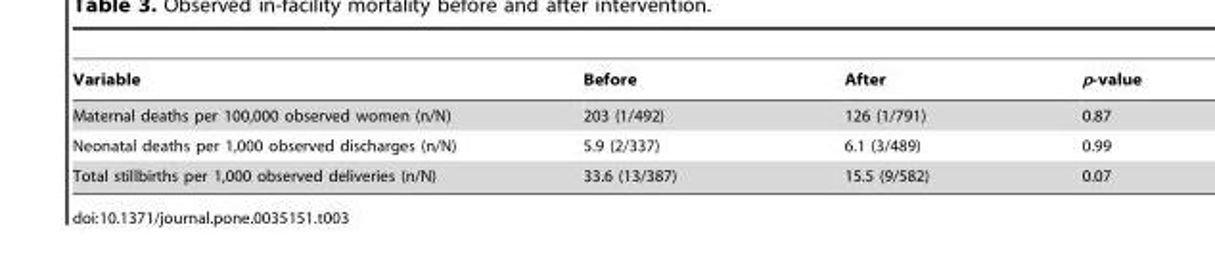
<table><thead><tr><td>Variable</td><td>Before</td><td>After</td><td>p-value</td></tr></thead><tbody><tr><td>Maternal deaths per 100,000 observed women (n/N)</td><td>203 (1/492)</td><td>126 (1/791)</td><td>0.87</td></tr><tr><td>Neonatal deaths per 1,000 observed discharges (n/N)</td><td>5.9 (2/337)</td><td>6.1 (3/489)</td><td>0.99</td></tr><tr><td>Total stillbirths per 1,000 observed deliveries (n/N)</td><td>33.6 (13/387)</td><td>15.5 (9/582)</td><td>0.07</td></tr></tbody></table>